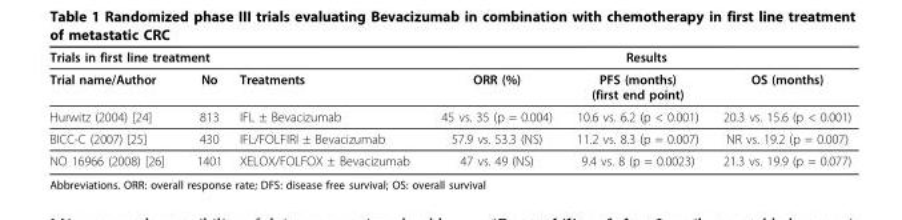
<table><thead><tr><td colspan="3">Trials in first line treatment</td><td colspan="3">Results</td></tr><tr><td>Trial name/Author</td><td>No</td><td>Treatments</td><td>ORR (%)</td><td>PFS (months) (first end point)</td><td>OS (months)</td></tr></thead><tbody><tr><td>Hurwitz (2004) [24]</td><td>813</td><td>IFL ± Bevacizumab</td><td>45 vs. 35 (p = 0.004)</td><td>10.6 vs. 6.2 (p &lt; 0.001)</td><td>20.3 vs. 15.6 (p &lt; 0.001)</td></tr><tr><td>BICC-C (2007) [25]</td><td>430</td><td>IFL/FOLFIRI ± Bevacizumab</td><td>57.9 vs. 53.3 (NS)</td><td>11.2 vs. 8.3 (p = 0.007)</td><td>NR vs. 19.2 (p = 0.007)</td></tr><tr><td>NO 16966 (2008) [26]</td><td>1401</td><td>XELOX/FOLFOX ± Bevacizumab</td><td>47 vs. 49 (NS)</td><td>9.4 vs. 8 (p = 0.0023)</td><td>21.3 vs. 19.9 (p = 0.077)</td></tr></tbody></table>